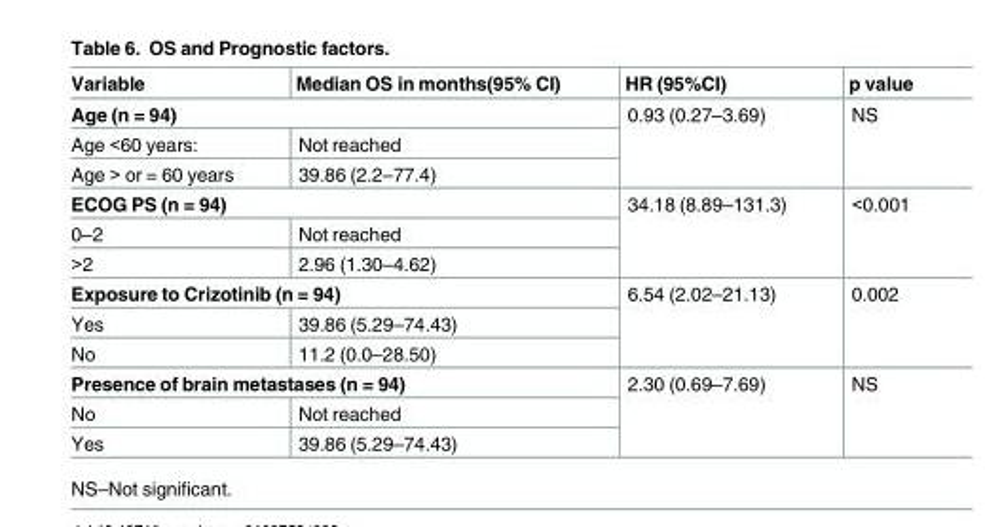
<table><thead><tr><td>Variable</td><td>Median OS in months(95% CI)</td><td>HR (95%CI)</td><td>p value</td></tr></thead><tbody><tr><td colspan="2">Age (n = 94)</td><td rowspan="3">0.93 (0.27–3.69)</td><td rowspan="3">NS</td></tr><tr><td>Age &lt;60 years:</td><td>Not reached</td></tr><tr><td>Age &gt; or = 60 years</td><td>39.86 (2.2–77.4)</td></tr><tr><td colspan="2">ECOG PS (n = 94)</td><td rowspan="3">34.18 (8.89–131.3)</td><td rowspan="3">&lt;0.001</td></tr><tr><td>0–2</td><td>Not reached</td></tr><tr><td>&gt;2</td><td>2.96 (1.30–4.62)</td></tr><tr><td colspan="2">Exposure to Crizotinib (n = 94)</td><td rowspan="3">6.54 (2.02–21.13)</td><td rowspan="3">0.002</td></tr><tr><td>Yes</td><td>39.86 (5.29–74.43)</td></tr><tr><td>No</td><td>11.2 (0.0–28.50)</td></tr><tr><td colspan="2">Presence of brain metastases (n = 94)</td><td rowspan="3">2.30 (0.69–7.69)</td><td rowspan="3">NS</td></tr><tr><td>No</td><td>Not reached</td></tr><tr><td>Yes</td><td>39.86 (5.29–74.43)</td></tr></tbody></table>